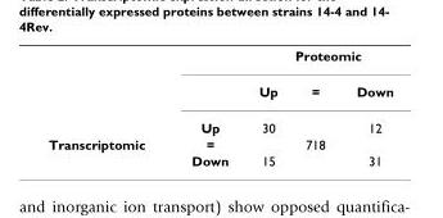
<table><thead><tr><td rowspan="2"></td><td rowspan="2"></td><td colspan="3">Proteomic</td></tr><tr><td>Up</td><td>=</td><td>Down</td></tr></thead><tbody><tr><td></td><td>Up</td><td>30</td><td></td><td>12</td></tr><tr><td rowspan="2">Transcriptomic</td><td>=</td><td></td><td>718</td><td></td></tr><tr><td>Down</td><td>15</td><td></td><td>31</td></tr></tbody></table>